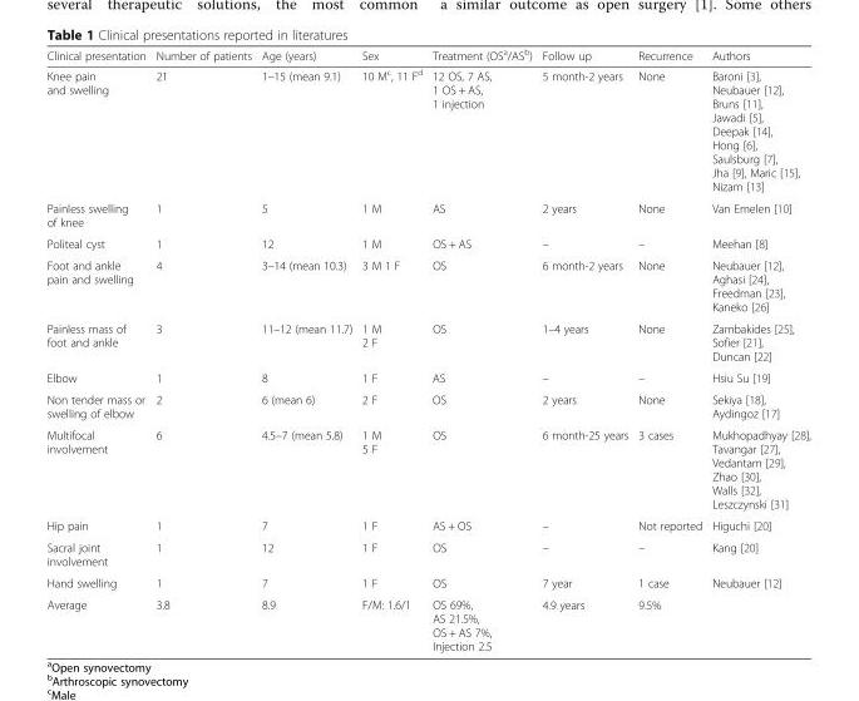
<table><thead><tr><td>Clinical presentation</td><td>Number of patients</td><td>Age (years)</td><td>Sex</td><td>Treatment (OS<sup>a</sup>/AS<sup>b</sup>)</td><td>Follow up</td><td>Recurrence</td><td>Authors</td></tr></thead><tbody><tr><td>Knee pain and swelling</td><td>21</td><td>1–15 (mean 9.1)</td><td>10 M<sup>c</sup>, 11 F<sup>d</sup></td><td>12 OS, 7 AS, 1 OS + AS, 1 injection</td><td>5 month-2 years</td><td>None</td><td>Baroni [3], Neubauer [12], Bruns [11], Jawadi [5], Deepak [14], Hong [6], Saulsburg [7], Jha [9], Maric [15], Nizam [13]</td></tr><tr><td>Painless swelling of knee</td><td>1</td><td>5</td><td>1 M</td><td>AS</td><td>2 years</td><td>None</td><td>Van Emelen [10]</td></tr><tr><td>Politeal cyst</td><td>1</td><td>12</td><td>1 M</td><td>OS + AS</td><td>–</td><td>–</td><td>Meehan [8]</td></tr><tr><td>Foot and ankle pain and swelling</td><td>4</td><td>3–14 (mean 10.3)</td><td>3 M 1 F</td><td>OS</td><td>6 month-2 years</td><td>None</td><td>Neubauer [12], Aghasi [24], Freedman [23], Kaneko [26]</td></tr><tr><td>Painless mass of foot and ankle</td><td>3</td><td>11–12 (mean 11.7)</td><td>1 M 2 F</td><td>OS</td><td>1–4 years</td><td>None</td><td>Zambakides [25], Sofier [21], Duncan [22]</td></tr><tr><td>Elbow</td><td>1</td><td>8</td><td>1 F</td><td>AS</td><td>–</td><td>–</td><td>Hsiu Su [19]</td></tr><tr><td>Non tender mass or swelling of elbow</td><td>2</td><td>6 (mean 6)</td><td>2 F</td><td>OS</td><td>2 years</td><td>None</td><td>Sekiya [18], Aydingoz [17]</td></tr><tr><td>Multifocal involvement</td><td>6</td><td>4.5–7 (mean 5.8)</td><td>1 M 5 F</td><td>OS</td><td>6 month-25 years</td><td>3 cases</td><td>Mukhopadhyay [28], Tavangar [27], Vedantam [29], Zhao [30], Walls [32], Leszczynski [31]</td></tr><tr><td>Hip pain</td><td>1</td><td>7</td><td>1 F</td><td>AS + OS</td><td>–</td><td>Not reported</td><td>Higuchi [20]</td></tr><tr><td>Sacral joint involvement</td><td>1</td><td>12</td><td>1 F</td><td>OS</td><td>–</td><td>–</td><td>Kang [20]</td></tr><tr><td>Hand swelling</td><td>1</td><td>7</td><td>1 F</td><td>OS</td><td>7 year</td><td>1 case</td><td>Neubauer [12]</td></tr><tr><td>Average</td><td>3.8</td><td>8.9</td><td>F/M: 1.6/1</td><td>OS 69%, AS 21.5%, OS + AS 7%, Injection 2.5</td><td>4.9 years</td><td>9.5%</td><td></td></tr></tbody></table>